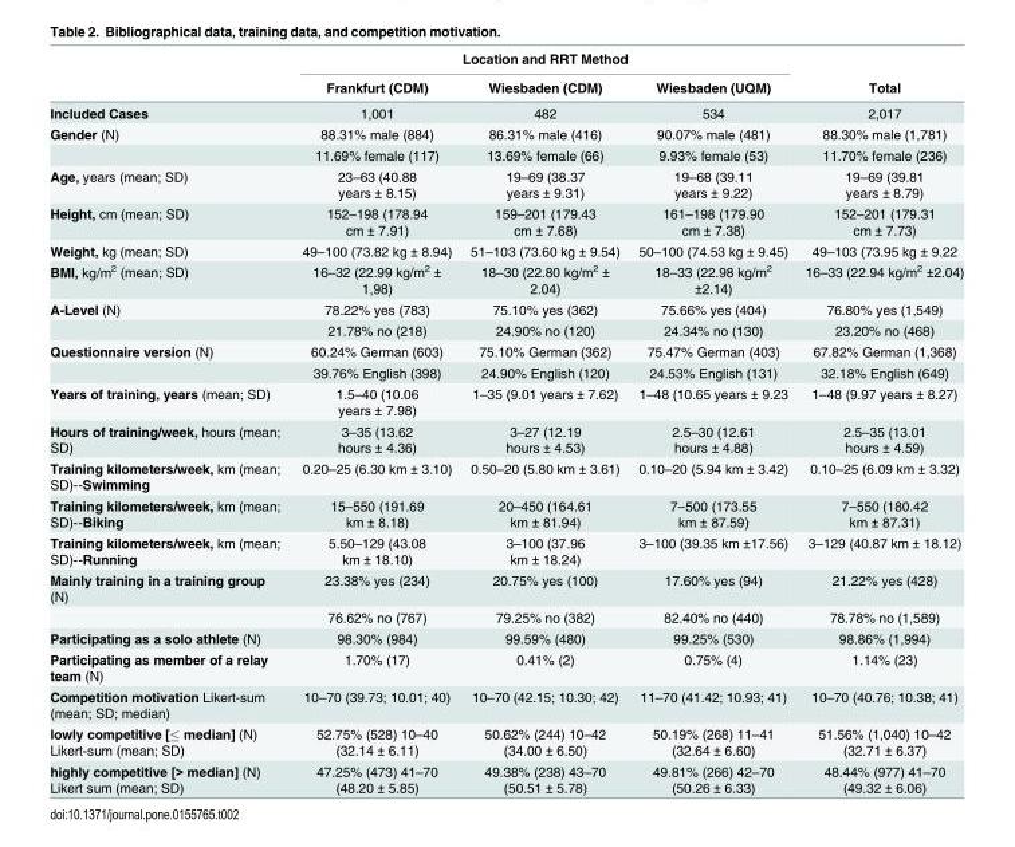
<table><thead><tr><td rowspan="2"></td><td colspan="3">Location and RRT Method</td><td rowspan="2">Total</td></tr><tr><td>Frankfurt (CDM)</td><td>Wiesbaden (CDM)</td><td>Wiesbaden (UQM)</td></tr></thead><tbody><tr><td>Included Cases</td><td>1,001</td><td>482</td><td>534</td><td>2,017</td></tr><tr><td rowspan="2">Gender (N)</td><td>88.31% male (884)</td><td>86.31% male (416)</td><td>90.07% male (481)</td><td>88.30% male (1,781)</td></tr><tr><td>11.69% female (117)</td><td>13.69% female (66)</td><td>9.93% female (53)</td><td>11.70% female (236)</td></tr><tr><td>Age, years (mean; SD)</td><td>23–63 (40.88 years ± 8.15)</td><td>19–69 (38.37 years ± 9.31)</td><td>19–68 (39.11 years ± 9.22)</td><td>19–69 (39.81 years ± 8.79)</td></tr><tr><td>Height, cm (mean; SD)</td><td>152–198 (178.94 cm ± 7.91)</td><td>159–201 (179.43 cm ± 7.68)</td><td>161–198 (179.90 cm ± 7.38)</td><td>152–201 (179.31 cm ± 7.73)</td></tr><tr><td>Weight, kg (mean; SD)</td><td>49–100 (73.82 kg ± 8.94)</td><td>51–103 (73.60 kg ± 9.54)</td><td>50–100 (74.53 kg ± 9.45)</td><td>49–103 (73.95 kg ± 9.22</td></tr><tr><td>BMI, kg/m<sup>2</sup> (mean; SD)</td><td>16–32 (22.99 kg/m<sup>2</sup> ± 1,98)</td><td>18–30 (22.80 kg/m<sup>2</sup> ± 2.04)</td><td>18–33 (22.98 kg/m<sup>2</sup> ±2.14)</td><td>16–33 (22.94 kg/m<sup>2</sup> ±2.04)</td></tr><tr><td rowspan="2">A-Level (N)</td><td>78.22% yes (783)</td><td>75.10% yes (362)</td><td>75.66% yes (404)</td><td>76.80% yes (1,549)</td></tr><tr><td>21.78% no (218)</td><td>24.90% no (120)</td><td>24.34% no (130)</td><td>23.20% no (468)</td></tr><tr><td rowspan="2">Questionnaire version (N)</td><td>60.24% German (603)</td><td>75.10% German (362)</td><td>75.47% German (403)</td><td>67.82% German (1,368)</td></tr><tr><td>39.76% English (398)</td><td>24.90% English (120)</td><td>24.53% English (131)</td><td>32.18% English (649)</td></tr><tr><td>Years of training, years (mean; SD)</td><td>1.5–40 (10.06 years ± 7.98)</td><td>1–35 (9.01 years ± 7.62)</td><td>1–48 (10.65 years ± 9.23</td><td>1–48 (9.97 years ± 8.27)</td></tr><tr><td>Hours of training/week, hours (mean; SD)</td><td>3–35 (13.62 hours ± 4.36)</td><td>3–27 (12.19 hours ± 4.53)</td><td>2.5–30 (12.61 hours ± 4.88)</td><td>2.5–35 (13.01 hours ± 4.59)</td></tr><tr><td>Training kilometers/week, km (mean; SD)--Swimming</td><td>0.20–25 (6.30 km ± 3.10)</td><td>0.50–20 (5.80 km ± 3.61)</td><td>0.10–20 (5.94 km ± 3.42)</td><td>0.10–25 (6.09 km ± 3.32)</td></tr><tr><td>Training kilometers/week, km (mean; SD)--Biking</td><td>15–550 (191.69 km ± 8.18)</td><td>20–450 (164.61 km ± 81.94)</td><td>7–500 (173.55 km ± 87.59)</td><td>7–550 (180.42 km ± 87.31)</td></tr><tr><td>Training kilometers/week, km (mean; SD)--Running</td><td>5.50–129 (43.08 km ± 18.10)</td><td>3–100 (37.96 km ± 18.24)</td><td>3–100 (39.35 km ±17.56)</td><td>3–129 (40.87 km ± 18.12)</td></tr><tr><td rowspan="2">Mainly training in a training group (N)</td><td>23.38% yes (234)</td><td>20.75% yes (100)</td><td>17.60% yes (94)</td><td>21.22% yes (428)</td></tr><tr><td>76.62% no (767)</td><td>79.25% no (382)</td><td>82.40% no (440)</td><td>78.78% no (1,589)</td></tr><tr><td>Participating as a solo athlete (N)</td><td>98.30% (984)</td><td>99.59% (480)</td><td>99.25% (530)</td><td>98.86% (1,994)</td></tr><tr><td>Participating as member of a relay team (N)</td><td>1.70% (17)</td><td>0.41% (2)</td><td>0.75% (4)</td><td>1.14% (23)</td></tr><tr><td>Competition motivation Likert-sum (mean; SD; median)</td><td>10–70 (39.73; 10.01; 40)</td><td>10–70 (42.15; 10.30; 42)</td><td>11–70 (41.42; 10.93; 41)</td><td>10–70 (40.76; 10.38; 41)</td></tr><tr><td>lowly competitive [≤ median] (N) Likert-sum (mean; SD)</td><td>52.75% (528) 10–40 (32.14 ± 6.11)</td><td>50.62% (244) 10–42 (34.00 ± 6.50)</td><td>50.19% (268) 11–41 (32.64 ± 6.60)</td><td>51.56% (1,040) 10–42 (32.71 ± 6.37)</td></tr><tr><td>highly competitive [&gt; median] (N) Likert sum (mean; SD)</td><td>47.25% (473) 41–70 (48.20 ± 5.85)</td><td>49.38% (238) 43–70 (50.51 ± 5.78)</td><td>49.81% (266) 42–70 (50.26 ± 6.33)</td><td>48.44% (977) 41–70 (49.32 ± 6.06)</td></tr></tbody></table>